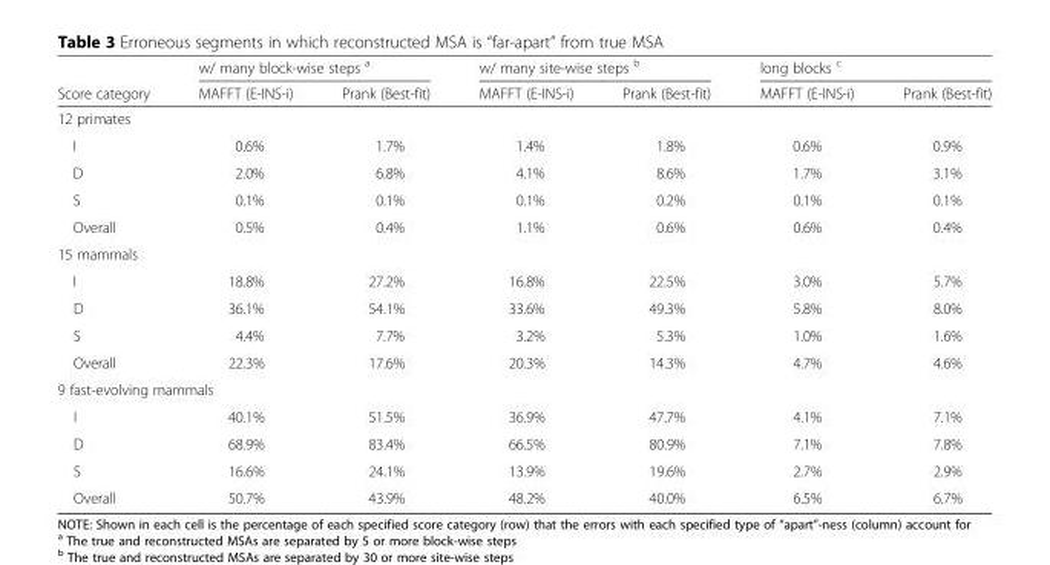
<table><thead><tr><td rowspan="2">Score category</td><td colspan="2">w/ many block-wise steps <sup>a</sup></td><td colspan="2">w/ many site-wise steps <sup>b</sup></td><td colspan="2">long blocks <sup>c</sup></td></tr><tr><td>MAFFT (E-INS-i)</td><td>Prank (Best-fit)</td><td>MAFFT (E-INS-i)</td><td>Prank (Best-fit)</td><td>MAFFT (E-INS-i)</td><td>Prank (Best-fit)</td></tr></thead><tbody><tr><td colspan="7">12 primates</td></tr><tr><td>I</td><td>0.6%</td><td>1.7%</td><td>1.4%</td><td>1.8%</td><td>0.6%</td><td>0.9%</td></tr><tr><td>D</td><td>2.0%</td><td>6.8%</td><td>4.1%</td><td>8.6%</td><td>1.7%</td><td>3.1%</td></tr><tr><td>S</td><td>0.1%</td><td>0.1%</td><td>0.1%</td><td>0.2%</td><td>0.1%</td><td>0.1%</td></tr><tr><td>Overall</td><td>0.5%</td><td>0.4%</td><td>1.1%</td><td>0.6%</td><td>0.6%</td><td>0.4%</td></tr><tr><td colspan="7">15 mammals</td></tr><tr><td>I</td><td>18.8%</td><td>27.2%</td><td>16.8%</td><td>22.5%</td><td>3.0%</td><td>5.7%</td></tr><tr><td>D</td><td>36.1%</td><td>54.1%</td><td>33.6%</td><td>49.3%</td><td>5.8%</td><td>8.0%</td></tr><tr><td>S</td><td>4.4%</td><td>7.7%</td><td>3.2%</td><td>5.3%</td><td>1.0%</td><td>1.6%</td></tr><tr><td>Overall</td><td>22.3%</td><td>17.6%</td><td>20.3%</td><td>14.3%</td><td>4.7%</td><td>4.6%</td></tr><tr><td colspan="7">9 fast-evolving mammals</td></tr><tr><td>I</td><td>40.1%</td><td>51.5%</td><td>36.9%</td><td>47.7%</td><td>4.1%</td><td>7.1%</td></tr><tr><td>D</td><td>68.9%</td><td>83.4%</td><td>66.5%</td><td>80.9%</td><td>7.1%</td><td>7.8%</td></tr><tr><td>S</td><td>16.6%</td><td>24.1%</td><td>13.9%</td><td>19.6%</td><td>2.7%</td><td>2.9%</td></tr><tr><td>Overall</td><td>50.7%</td><td>43.9%</td><td>48.2%</td><td>40.0%</td><td>6.5%</td><td>6.7%</td></tr></tbody></table>